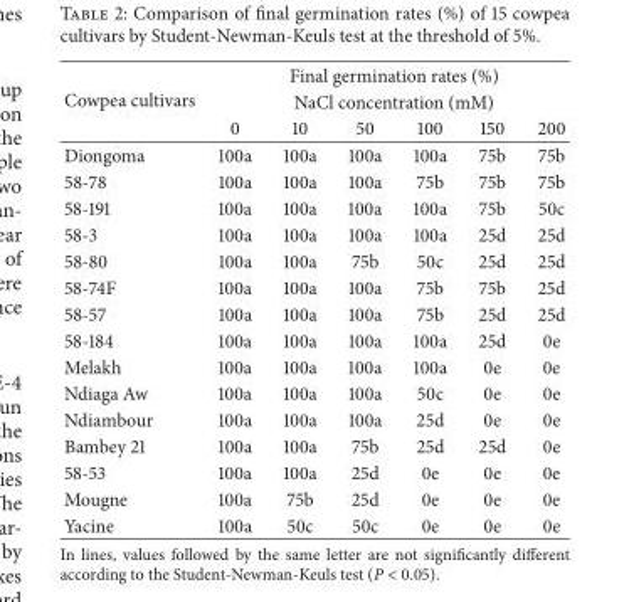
<table><thead><tr><td rowspan="3">Cowpea cultivars</td><td rowspan="2" colspan="6">Final germination rates (%) NaCl concentration (mM)</td></tr><tr></tr><tr><td>0</td><td>10</td><td>50</td><td>100</td><td>150</td><td>200</td></tr></thead><tbody><tr><td>Diongoma</td><td>100a</td><td>100a</td><td>100a</td><td>100a</td><td>75b</td><td>75b</td></tr><tr><td>58-78</td><td>100a</td><td>100a</td><td>100a</td><td>75b</td><td>75b</td><td>75b</td></tr><tr><td>58-191</td><td>100a</td><td>100a</td><td>100a</td><td>100a</td><td>75b</td><td>50c</td></tr><tr><td>58-3</td><td>100a</td><td>100a</td><td>100a</td><td>100a</td><td>25d</td><td>25d</td></tr><tr><td>58-80</td><td>100a</td><td>100a</td><td>75b</td><td>50c</td><td>25d</td><td>25d</td></tr><tr><td>58-74F</td><td>100a</td><td>100a</td><td>100a</td><td>75b</td><td>75b</td><td>25d</td></tr><tr><td>58-57</td><td>100a</td><td>100a</td><td>100a</td><td>75b</td><td>25d</td><td>25d</td></tr><tr><td>58-184</td><td>100a</td><td>100a</td><td>100a</td><td>100a</td><td>25d</td><td>0e</td></tr><tr><td>Melakh</td><td>100a</td><td>100a</td><td>100a</td><td>100a</td><td>0e</td><td>0e</td></tr><tr><td>Ndiaga Aw</td><td>100a</td><td>100a</td><td>100a</td><td>50c</td><td>0e</td><td>0e</td></tr><tr><td>Ndiambour</td><td>100a</td><td>100a</td><td>100a</td><td>25d</td><td>0e</td><td>0e</td></tr><tr><td>Bambey 21</td><td>100a</td><td>100a</td><td>75b</td><td>25d</td><td>25d</td><td>0e</td></tr><tr><td>58-53</td><td>100a</td><td>100a</td><td>25d</td><td>0e</td><td>0e</td><td>0e</td></tr><tr><td>Mougne</td><td>100a</td><td>75b</td><td>25d</td><td>0e</td><td>0e</td><td>0e</td></tr><tr><td>Yacine</td><td>100a</td><td>50c</td><td>50c</td><td>0e</td><td>0e</td><td>0e</td></tr></tbody></table>